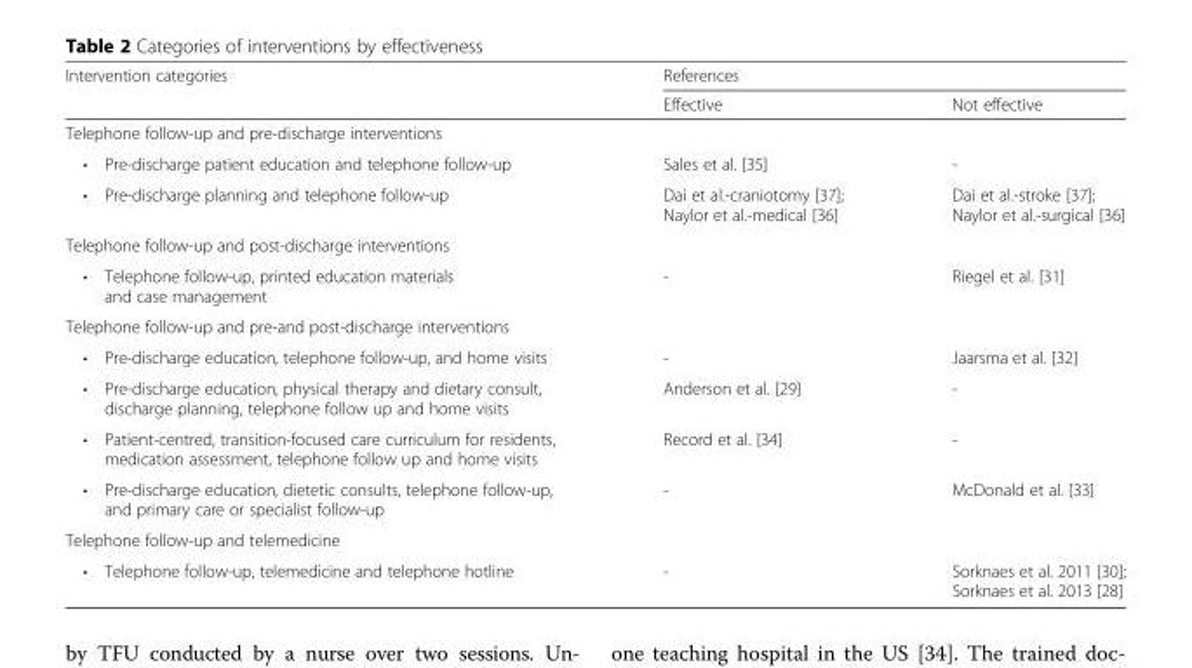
<table><thead><tr><td rowspan="2">Intervention categories</td><td colspan="2">References</td></tr><tr><td>Effective</td><td>Not effective</td></tr></thead><tbody><tr><td colspan="3">Telephone follow-up and pre-discharge interventions</td></tr><tr><td>• Pre-discharge patient education and telephone follow-up</td><td>Sales et al. [35]</td><td>-</td></tr><tr><td>• Pre-discharge planning and telephone follow-up</td><td>Dai et al.-craniotomy [37]; Naylor et al.-medical [36]</td><td>Dai et al.-stroke [37]; Naylor et al.-surgical [36]</td></tr><tr><td colspan="3">Telephone follow-up and post-discharge interventions</td></tr><tr><td>• Telephone follow-up, printed education materials and case management</td><td>-</td><td>Riegel et al. [31]</td></tr><tr><td colspan="3">Telephone follow-up and pre-and post-discharge interventions</td></tr><tr><td>• Pre-discharge education, telephone follow-up, and home visits</td><td>-</td><td>Jaarsma et al. [32]</td></tr><tr><td>• Pre-discharge education, physical therapy and dietary consult, discharge planning, telephone follow up and home visits</td><td>Anderson et al. [29]</td><td>-</td></tr><tr><td>• Patient-centred, transition-focused care curriculum for residents, medication assessment, telephone follow up and home visits</td><td>Record et al. [34]</td><td>-</td></tr><tr><td>• Pre-discharge education, dietetic consults, telephone follow-up, and primary care or specialist follow-up</td><td>-</td><td>McDonald et al. [33]</td></tr><tr><td colspan="3">Telephone follow-up and telemedicine</td></tr><tr><td>• Telephone follow-up, telemedicine and telephone hotline</td><td>-</td><td>Sorknaes et al. 2011 [30]; Sorknaes et al. 2013 [28]</td></tr></tbody></table>